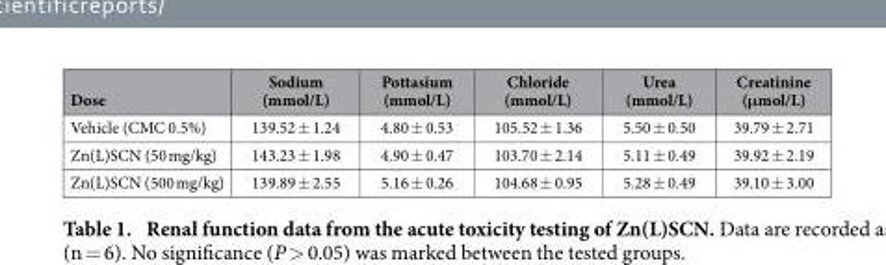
<table><thead><tr><td>Dose</td><td>Sodium (mmol/L)</td><td>Pottasium (mmol/L)</td><td>Chloride (mmol/L)</td><td>Urea (mmol/L)</td><td>Creatinine (μmol/L)</td></tr></thead><tbody><tr><td>Vehicle (CMC 0.5%)</td><td>139.52 ± 1.24</td><td>4.80 ± 0.53</td><td>105.52 ± 1.36</td><td>5.50 ± 0.50</td><td>39.79 ± 2.71</td></tr><tr><td>Zn(L)SCN (50 mg/kg)</td><td>143.23 ± 1.98</td><td>4.90 ± 0.47</td><td>103.70 ± 2.14</td><td>5.11 ± 0.49</td><td>39.92 ± 2.19</td></tr><tr><td>Zn(L)SCN (500 mg/kg)</td><td>139.89 ± 2.55</td><td>5.16 ± 0.26</td><td>104.68 ± 0.95</td><td>5.28 ± 0.49</td><td>39.10 ± 3.00</td></tr></tbody></table>